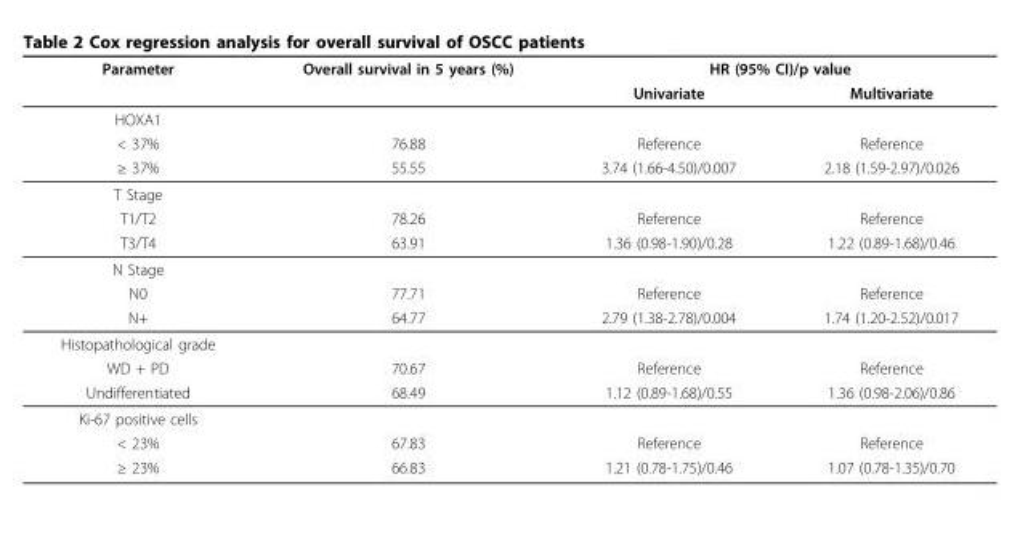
<table><thead><tr><td rowspan="2">Parameter</td><td rowspan="2">Overall survival in 5 years (%)</td><td colspan="2">HR (95% CI)/p value</td></tr><tr><td>Univariate</td><td>Multivariate</td></tr></thead><tbody><tr><td colspan="4">HOXA1</td></tr><tr><td>&lt; 37%</td><td>76.88</td><td>Reference</td><td>Reference</td></tr><tr><td>≥ 37%</td><td>55.55</td><td>3.74 (1.66-4.50)/0.007</td><td>2.18 (1.59-2.97)/0.026</td></tr><tr><td colspan="4">T Stage</td></tr><tr><td>T1/T2</td><td>78.26</td><td>Reference</td><td>Reference</td></tr><tr><td>T3/T4</td><td>63.91</td><td>1.36 (0.98-1.90)/0.28</td><td>1.22 (0.89-1.68)/0.46</td></tr><tr><td colspan="4">N Stage</td></tr><tr><td>N0</td><td>77.71</td><td>Reference</td><td>Reference</td></tr><tr><td>N+</td><td>64.77</td><td>2.79 (1.38-2.78)/0.004</td><td>1.74 (1.20-2.52)/0.017</td></tr><tr><td colspan="4">Histopathological grade</td></tr><tr><td>WD + PD</td><td>70.67</td><td>Reference</td><td>Reference</td></tr><tr><td>Undifferentiated</td><td>68.49</td><td>1.12 (0.89-1.68)/0.55</td><td>1.36 (0.98-2.06)/0.86</td></tr><tr><td colspan="4">Ki-67 positive cells</td></tr><tr><td>&lt; 23%</td><td>67.83</td><td>Reference</td><td>Reference</td></tr><tr><td>≥ 23%</td><td>66.83</td><td>1.21 (0.78-1.75)/0.46</td><td>1.07 (0.78-1.35)/0.70</td></tr></tbody></table>